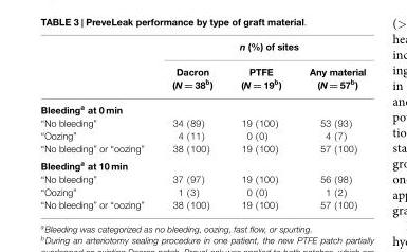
<table><thead><tr><td rowspan="2"></td><td colspan="3">n (%) of sites</td></tr><tr><td>Dacron (N = 38<sup>b</sup>)</td><td>PTFE (N = 19<sup>b</sup>)</td><td>Any material (N = 57<sup>b</sup>)</td></tr></thead><tbody><tr><td colspan="4">Bleeding<sup>a</sup> at 0 min</td></tr><tr><td>“No bleeding”</td><td>34 (89)</td><td>19 (100)</td><td>53 (93)</td></tr><tr><td>“Oozing”</td><td>4 (11)</td><td>0 (0)</td><td>4 (7)</td></tr><tr><td>“No bleeding” or “oozing”</td><td>38 (100)</td><td>19 (100)</td><td>57 (100)</td></tr><tr><td colspan="4">Bleeding<sup>a</sup> at 10 min</td></tr><tr><td>“No bleeding”</td><td>37 (97)</td><td>19 (100)</td><td>56 (98)</td></tr><tr><td>“Oozing”</td><td>1 (3)</td><td>0 (0)</td><td>1 (2)</td></tr><tr><td>“No bleeding” or “oozing”</td><td>38 (100)</td><td>19 (100)</td><td>57 (100)</td></tr></tbody></table>